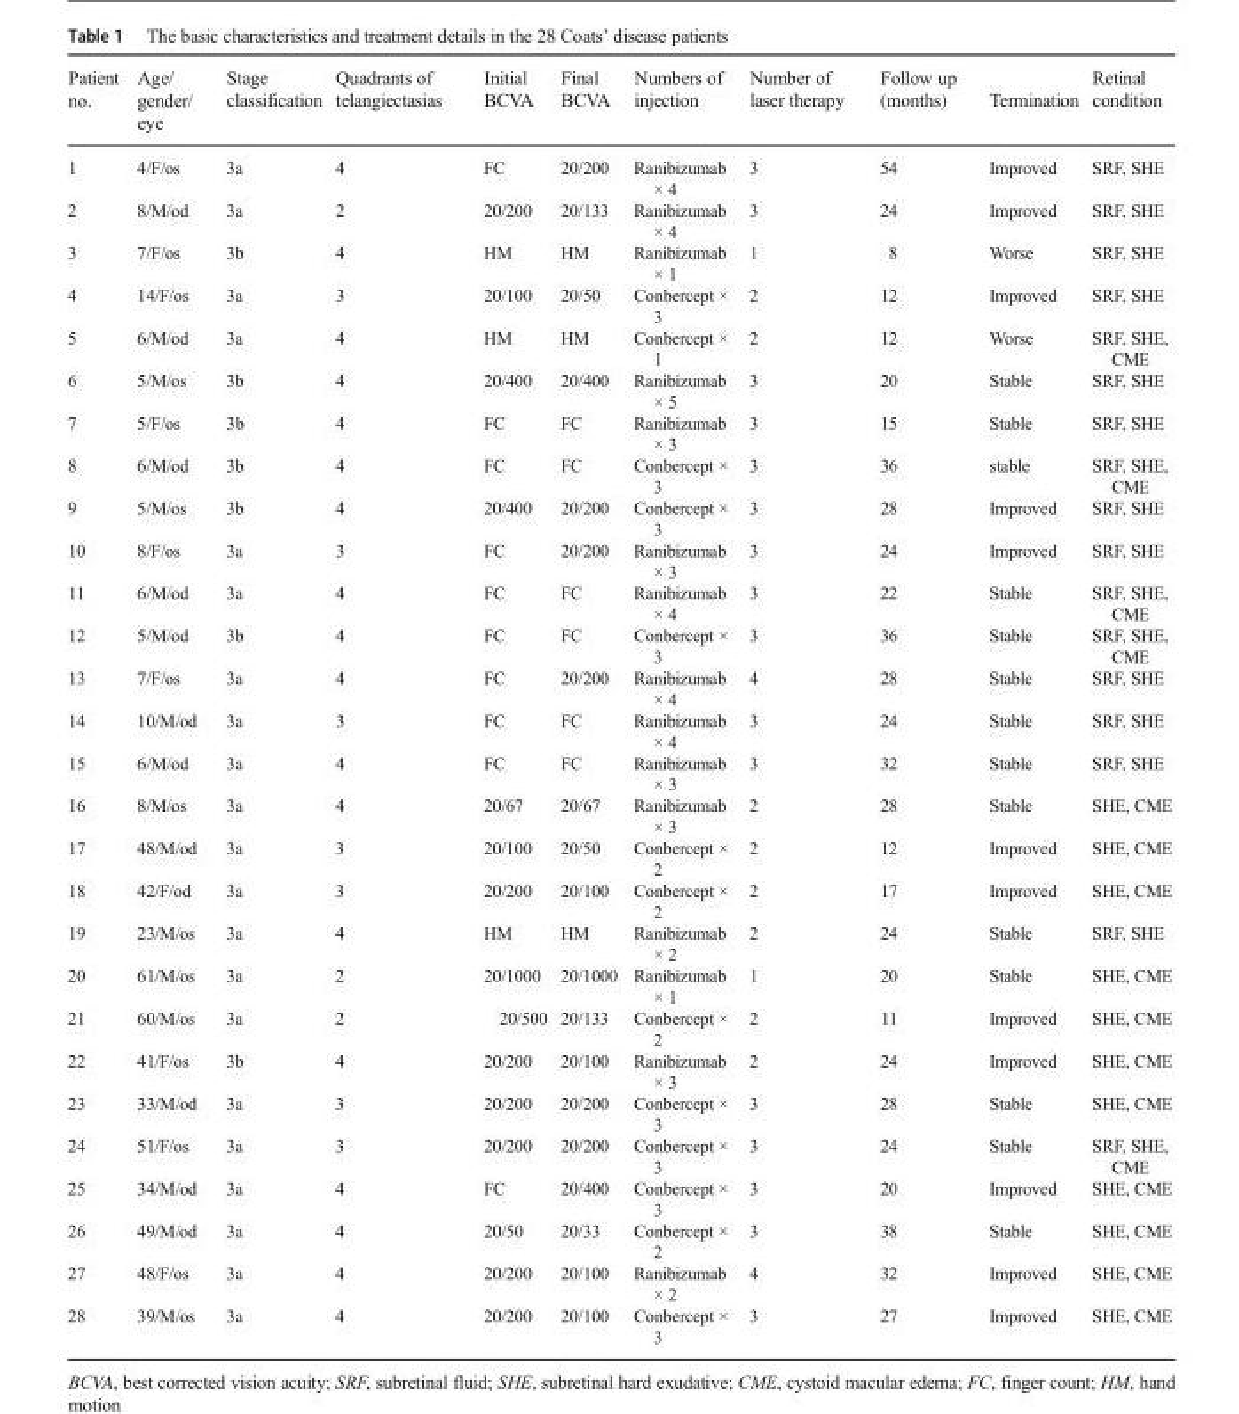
<table><thead><tr><td>Patient no.</td><td>Age/ gender/ eye</td><td>Stage classification</td><td>Quadrants of telangiectasias</td><td>Initial BCVA</td><td>Final BCVA</td><td>Numbers of injection</td><td>Number of laser therapy</td><td>Follow up (months)</td><td>Termination</td><td>Retinal condition</td></tr></thead><tbody><tr><td>1</td><td>4/F/os</td><td>3a</td><td>4</td><td>FC</td><td>20/200</td><td>Ranibizumab × 4</td><td>3</td><td>54</td><td>Improved</td><td>SRF, SHE</td></tr><tr><td>2</td><td>8/M/od</td><td>3a</td><td>2</td><td>20/200</td><td>20/133</td><td>Ranibizumab × 4</td><td>3</td><td>24</td><td>Improved</td><td>SRF, SHE</td></tr><tr><td>3</td><td>7/F/os</td><td>3b</td><td>4</td><td>HM</td><td>HM</td><td>Ranibizumab × 1</td><td>1</td><td>8</td><td>Worse</td><td>SRF, SHE</td></tr><tr><td>4</td><td>14/F/os</td><td>3a</td><td>3</td><td>20/100</td><td>20/50</td><td>Conbercept × 3</td><td>2</td><td>12</td><td>Improved</td><td>SRF, SHE</td></tr><tr><td>5</td><td>6/M/od</td><td>3a</td><td>4</td><td>HM</td><td>HM</td><td>Conbercept × 1</td><td>2</td><td>12</td><td>Worse</td><td>SRF, SHE, CME</td></tr><tr><td>6</td><td>5/M/os</td><td>3b</td><td>4</td><td>20/400</td><td>20/400</td><td>Ranibizumab × 5</td><td>3</td><td>20</td><td>Stable</td><td>SRF, SHE</td></tr><tr><td>7</td><td>5/F/os</td><td>3b</td><td>4</td><td>FC</td><td>FC</td><td>Ranibizumab × 3</td><td>3</td><td>15</td><td>Stable</td><td>SRF, SHE</td></tr><tr><td>8</td><td>6/M/od</td><td>3b</td><td>4</td><td>FC</td><td>FC</td><td>Conbercept × 3</td><td>3</td><td>36</td><td>stable</td><td>SRF, SHE, CME</td></tr><tr><td>9</td><td>5/M/os</td><td>3b</td><td>4</td><td>20/400</td><td>20/200</td><td>Conbercept × 3</td><td>3</td><td>28</td><td>Improved</td><td>SRF, SHE</td></tr><tr><td>10</td><td>8/F/os</td><td>3a</td><td>3</td><td>FC</td><td>20/200</td><td>Ranibizumab × 3</td><td>3</td><td>24</td><td>Improved</td><td>SRF, SHE</td></tr><tr><td>11</td><td>6/M/od</td><td>3a</td><td>4</td><td>FC</td><td>FC</td><td>Ranibizumab × 4</td><td>3</td><td>22</td><td>Stable</td><td>SRF, SHE, CME</td></tr><tr><td>12</td><td>5/M/od</td><td>3b</td><td>4</td><td>FC</td><td>FC</td><td>Conbercept × 3</td><td>3</td><td>36</td><td>Stable</td><td>SRF, SHE, CME</td></tr><tr><td>13</td><td>7/F/os</td><td>3a</td><td>4</td><td>FC</td><td>20/200</td><td>Ranibizumab × 4</td><td>4</td><td>28</td><td>Stable</td><td>SRF, SHE</td></tr><tr><td>14</td><td>10/M/od</td><td>3a</td><td>3</td><td>FC</td><td>FC</td><td>Ranibizumab × 4</td><td>3</td><td>24</td><td>Stable</td><td>SRF, SHE</td></tr><tr><td>15</td><td>6/M/od</td><td>3a</td><td>4</td><td>FC</td><td>FC</td><td>Ranibizumab × 3</td><td>3</td><td>32</td><td>Stable</td><td>SRF, SHE</td></tr><tr><td>16</td><td>8/M/os</td><td>3a</td><td>4</td><td>20/67</td><td>20/67</td><td>Ranibizumab × 3</td><td>2</td><td>28</td><td>Stable</td><td>SHE, CME</td></tr><tr><td>17</td><td>48/M/od</td><td>3a</td><td>3</td><td>20/100</td><td>20/50</td><td>Conbercept × 2</td><td>2</td><td>12</td><td>Improved</td><td>SHE, CME</td></tr><tr><td>18</td><td>42/F/od</td><td>3a</td><td>3</td><td>20/200</td><td>20/100</td><td>Conbercept × 2</td><td>2</td><td>17</td><td>Improved</td><td>SHE, CME</td></tr><tr><td>19</td><td>23/M/os</td><td>3a</td><td>4</td><td>HM</td><td>HM</td><td>Ranibizumab × 2</td><td>2</td><td>24</td><td>Stable</td><td>SRF, SHE</td></tr><tr><td>20</td><td>61/M/os</td><td>3a</td><td>2</td><td>20/1000</td><td>20/1000</td><td>Ranibizumab × 1</td><td>1</td><td>20</td><td>Stable</td><td>SHE, CME</td></tr><tr><td>21</td><td>60/M/os</td><td>3a</td><td>2</td><td>20/500</td><td>20/133</td><td>Conbercept × 2</td><td>2</td><td>11</td><td>Improved</td><td>SHE, CME</td></tr><tr><td>22</td><td>41/F/os</td><td>3b</td><td>4</td><td>20/200</td><td>20/100</td><td>Ranibizumab × 3</td><td>2</td><td>24</td><td>Improved</td><td>SHE, CME</td></tr><tr><td>23</td><td>33/M/od</td><td>3a</td><td>3</td><td>20/200</td><td>20/200</td><td>Conbercept × 3</td><td>3</td><td>28</td><td>Stable</td><td>SHE, CME</td></tr><tr><td>24</td><td>51/F/os</td><td>3a</td><td>3</td><td>20/200</td><td>20/200</td><td>Conbercept × 3</td><td>3</td><td>24</td><td>Stable</td><td>SRF, SHE, CME</td></tr><tr><td>25</td><td>34/M/od</td><td>3a</td><td>4</td><td>FC</td><td>20/400</td><td>Conbercept × 3</td><td>3</td><td>20</td><td>Improved</td><td>SHE, CME</td></tr><tr><td>26</td><td>49/M/od</td><td>3a</td><td>4</td><td>20/50</td><td>20/33</td><td>Conbercept × 2</td><td>3</td><td>38</td><td>Stable</td><td>SHE, CME</td></tr><tr><td>27</td><td>48/F/os</td><td>3a</td><td>4</td><td>20/200</td><td>20/100</td><td>Ranibizumab × 2</td><td>4</td><td>32</td><td>Improved</td><td>SHE, CME</td></tr><tr><td>28</td><td>39/M/os</td><td>3a</td><td>4</td><td>20/200</td><td>20/100</td><td>Conbercept × 3</td><td>3</td><td>27</td><td>Improved</td><td>SHE, CME</td></tr></tbody></table>